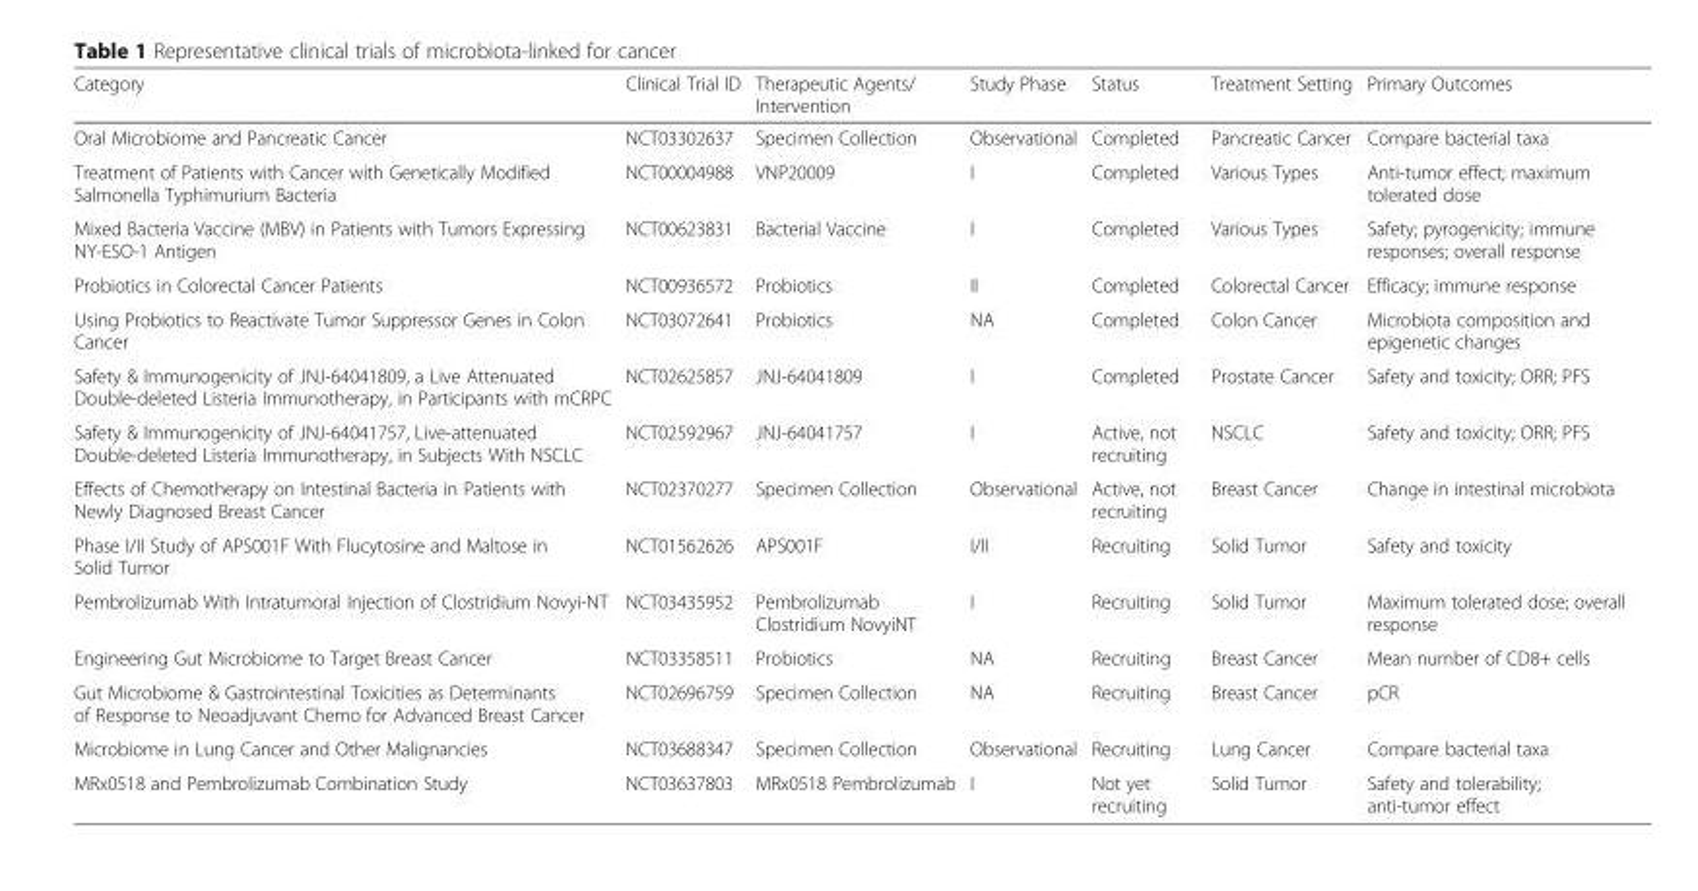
<table><thead><tr><td>Category</td><td>Clinical Trial ID</td><td>Therapeutic Agents/ Intervention</td><td>Study Phase</td><td>Status</td><td>Treatment Setting</td><td>Primary Outcomes</td></tr></thead><tbody><tr><td>Oral Microbiome and Pancreatic Cancer</td><td>NCT03302637</td><td>Specimen Collection</td><td>Observational</td><td>Completed</td><td>Pancreatic Cancer</td><td>Compare bacterial taxa</td></tr><tr><td>Treatment of Patients with Cancer with Genetically Modified Salmonella Typhimurium Bacteria</td><td>NCT00004988</td><td>VNP20009</td><td>I</td><td>Completed</td><td>Various Types</td><td>Anti-tumor effect; maximum tolerated dose</td></tr><tr><td>Mixed Bacteria Vaccine (MBV) in Patients with Tumors Expressing NY-ESO-1 Antigen</td><td>NCT00623831</td><td>Bacterial Vaccine</td><td>I</td><td>Completed</td><td>Various Types</td><td>Safety; pyrogenicity; immune responses; overall response</td></tr><tr><td>Probiotics in Colorectal Cancer Patients</td><td>NCT00936572</td><td>Probiotics</td><td>II</td><td>Completed</td><td>Colorectal Cancer</td><td>Efficacy; immune response</td></tr><tr><td>Using Probiotics to Reactivate Tumor Suppressor Genes in Colon Cancer</td><td>NCT03072641</td><td>Probiotics</td><td>NA</td><td>Completed</td><td>Colon Cancer</td><td>Microbiota composition and epigenetic changes</td></tr><tr><td>Safety &amp; Immunogenicity of JNJ-64041809, a Live Attenuated Double-deleted Listeria Immunotherapy, in Participants with mCRPC</td><td>NCT02625857</td><td>JNJ-64041809</td><td>I</td><td>Completed</td><td>Prostate Cancer</td><td>Safety and toxicity; ORR; PFS</td></tr><tr><td>Safety &amp; Immunogenicity of JNJ-64041757, Live-attenuated Double-deleted Listeria Immunotherapy, in Subjects With NSCLC</td><td>NCT02592967</td><td>JNJ-64041757</td><td>I</td><td>Active, not recruiting</td><td>NSCLC</td><td>Safety and toxicity; ORR; PFS</td></tr><tr><td>Effects of Chemotherapy on Intestinal Bacteria in Patients with Newly Diagnosed Breast Cancer</td><td>NCT02370277</td><td>Specimen Collection</td><td>Observational</td><td>Active, not recruiting</td><td>Breast Cancer</td><td>Change in intestinal microbiota</td></tr><tr><td>Phase I/II Study of APS001F With Flucytosine and Maltose in Solid Tumor</td><td>NCT01562626</td><td>APS001F</td><td>I/II</td><td>Recruiting</td><td>Solid Tumor</td><td>Safety and toxicity</td></tr><tr><td>Pembrolizumab With Intratumoral Injection of Clostridium Novyi-NT</td><td>NCT03435952</td><td>Pembrolizumab Clostridium NovyiNT</td><td>I</td><td>Recruiting</td><td>Solid Tumor</td><td>Maximum tolerated dose; overall response</td></tr><tr><td>Engineering Gut Microbiome to Target Breast Cancer</td><td>NCT03358511</td><td>Probiotics</td><td>NA</td><td>Recruiting</td><td>Breast Cancer</td><td>Mean number of CD8+ cells</td></tr><tr><td>Gut Microbiome &amp; Gastrointestinal Toxicities as Determinants of Response to Neoadjuvant Chemo for Advanced Breast Cancer</td><td>NCT02696759</td><td>Specimen Collection</td><td>NA</td><td>Recruiting</td><td>Breast Cancer</td><td>pCR</td></tr><tr><td>Microbiome in Lung Cancer and Other Malignancies</td><td>NCT03688347</td><td>Specimen Collection</td><td>Observational</td><td>Recruiting</td><td>Lung Cancer</td><td>Compare bacterial taxa</td></tr><tr><td>MRx0518 and Pembrolizumab Combination Study</td><td>NCT03637803</td><td>MRx0518 Pembrolizumab</td><td>I</td><td>Not yet recruiting</td><td>Solid Tumor</td><td>Safety and tolerability; anti-tumor effect</td></tr></tbody></table>